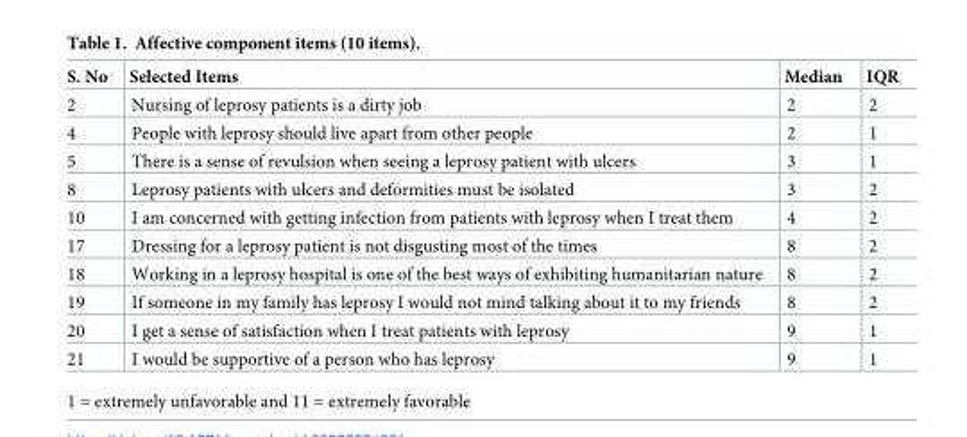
<table><thead><tr><td>S. No</td><td>Selected Items</td><td>Median</td><td>IQR</td></tr></thead><tbody><tr><td>2</td><td>Nursing of leprosy patients is a dirty job</td><td>2</td><td>2</td></tr><tr><td>4</td><td>People with leprosy should live apart from other people</td><td>2</td><td>1</td></tr><tr><td>5</td><td>There is a sense of revulsion when seeing a leprosy patient with ulcers</td><td>3</td><td>1</td></tr><tr><td>8</td><td>Leprosy patients with ulcers and deformities must be isolated</td><td>3</td><td>2</td></tr><tr><td>10</td><td>I am concerned with getting infection from patients with leprosy when I treat them</td><td>4</td><td>2</td></tr><tr><td>17</td><td>Dressing for a leprosy patient is not disgusting most of the times</td><td>8</td><td>2</td></tr><tr><td>18</td><td>Working in a leprosy hospital is one of the best ways of exhibiting humanitarian nature</td><td>8</td><td>2</td></tr><tr><td>19</td><td>If someone in my family has leprosy I would not mind talking about it to my friends</td><td>8</td><td>2</td></tr><tr><td>20</td><td>I get a sense of satisfaction when I treat patients with leprosy</td><td>9</td><td>1</td></tr><tr><td>21</td><td>I would be supportive of a person who has leprosy</td><td>9</td><td>1</td></tr></tbody></table>